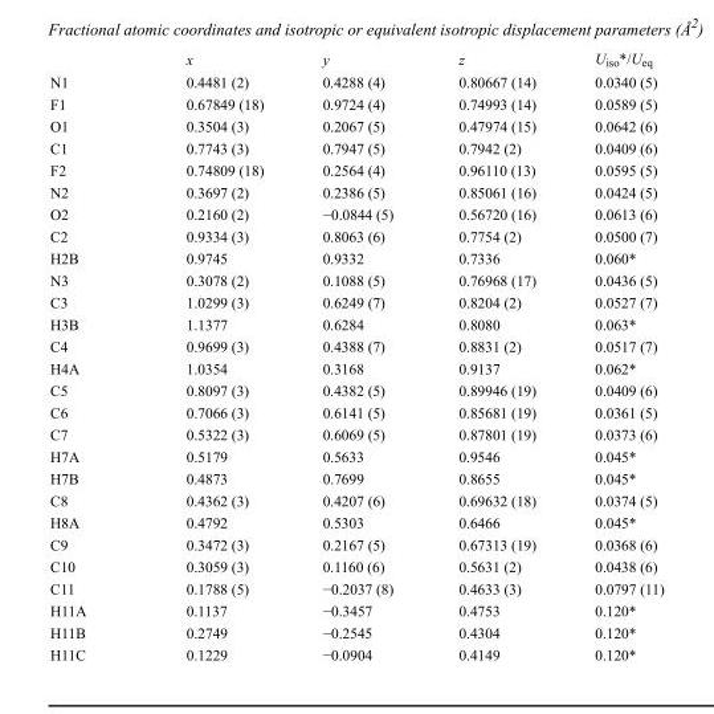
<table><thead><tr><td></td><td>x</td><td>y</td><td>z</td><td>U<sub>iso</sub>*/U<sub>eq</sub></td></tr></thead><tbody><tr><td>N1</td><td>0.4481 (2)</td><td>0.4288 (4)</td><td>0.80667 (14)</td><td>0.0340 (5)</td></tr><tr><td>F1</td><td>0.67849 (18)</td><td>0.9724 (4)</td><td>0.74993 (14)</td><td>0.0589 (5)</td></tr><tr><td>O1</td><td>0.3504 (3)</td><td>0.2067 (5)</td><td>0.47974 (15)</td><td>0.0642 (6)</td></tr><tr><td>C1</td><td>0.7743 (3)</td><td>0.7947 (5)</td><td>0.7942 (2)</td><td>0.0409 (6)</td></tr><tr><td>F2</td><td>0.74809 (18)</td><td>0.2564 (4)</td><td>0.96110 (13)</td><td>0.0595 (5)</td></tr><tr><td>N2</td><td>0.3697 (2)</td><td>0.2386 (5)</td><td>0.85061 (16)</td><td>0.0424 (5)</td></tr><tr><td>O2</td><td>0.2160 (2)</td><td>−0.0844 (5)</td><td>0.56720 (16)</td><td>0.0613 (6)</td></tr><tr><td>C2</td><td>0.9334 (3)</td><td>0.8063 (6)</td><td>0.7754 (2)</td><td>0.0500 (7)</td></tr><tr><td>H2B</td><td>0.9745</td><td>0.9332</td><td>0.7336</td><td>0.060*</td></tr><tr><td>N3</td><td>0.3078 (2)</td><td>0.1088 (5)</td><td>0.76968 (17)</td><td>0.0436 (5)</td></tr><tr><td>C3</td><td>1.0299 (3)</td><td>0.6249 (7)</td><td>0.8204 (2)</td><td>0.0527 (7)</td></tr><tr><td>H3B</td><td>1.1377</td><td>0.6284</td><td>0.8080</td><td>0.063*</td></tr><tr><td>C4</td><td>0.9699 (3)</td><td>0.4388 (7)</td><td>0.8831 (2)</td><td>0.0517 (7)</td></tr><tr><td>H4A</td><td>1.0354</td><td>0.3168</td><td>0.9137</td><td>0.062*</td></tr><tr><td>C5</td><td>0.8097 (3)</td><td>0.4382 (5)</td><td>0.89946 (19)</td><td>0.0409 (6)</td></tr><tr><td>C6</td><td>0.7066 (3)</td><td>0.6141 (5)</td><td>0.85681 (19)</td><td>0.0361 (5)</td></tr><tr><td>C7</td><td>0.5322 (3)</td><td>0.6069 (5)</td><td>0.87801 (19)</td><td>0.0373 (6)</td></tr><tr><td>H7A</td><td>0.5179</td><td>0.5633</td><td>0.9546</td><td>0.045*</td></tr><tr><td>H7B</td><td>0.4873</td><td>0.7699</td><td>0.8655</td><td>0.045*</td></tr><tr><td>C8</td><td>0.4362 (3)</td><td>0.4207 (6)</td><td>0.69632 (18)</td><td>0.0374 (5)</td></tr><tr><td>H8A</td><td>0.4792</td><td>0.5303</td><td>0.6466</td><td>0.045*</td></tr><tr><td>C9</td><td>0.3472 (3)</td><td>0.2167 (5)</td><td>0.67313 (19)</td><td>0.0368 (6)</td></tr><tr><td>C10</td><td>0.3059 (3)</td><td>0.1160 (6)</td><td>0.5631 (2)</td><td>0.0438 (6)</td></tr><tr><td>C11</td><td>0.1788 (5)</td><td>−0.2037 (8)</td><td>0.4633 (3)</td><td>0.0797 (11)</td></tr><tr><td>H11A</td><td>0.1137</td><td>−0.3457</td><td>0.4753</td><td>0.120*</td></tr><tr><td>H11B</td><td>0.2749</td><td>−0.2545</td><td>0.4304</td><td>0.120*</td></tr><tr><td>H11C</td><td>0.1229</td><td>−0.0904</td><td>0.4149</td><td>0.120*</td></tr></tbody></table>